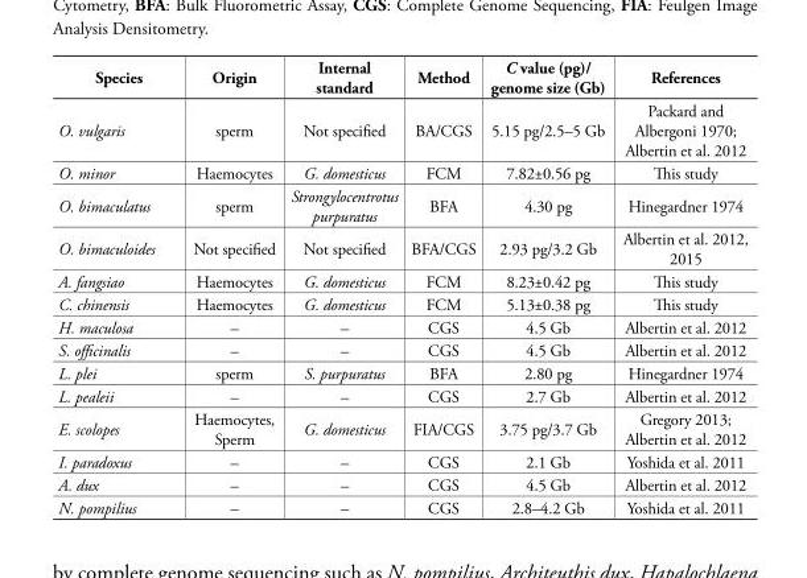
<table><thead><tr><td>Species</td><td>Origin</td><td>Internal standard</td><td>Method</td><td>C value (pg)/ genome size (Gb)</td><td>References</td></tr></thead><tbody><tr><td>O. vulgaris</td><td>sperm</td><td>Not specified</td><td>BA/CGS</td><td>5.15 pg/2.5–5 Gb</td><td>Packard and Albergoni 1970; Albertin et al. 2012</td></tr><tr><td>O. minor</td><td>Haemocytes</td><td>G. domesticus</td><td>FCM</td><td>7.82±0.56 pg</td><td>This study</td></tr><tr><td>O. bimaculatus</td><td>sperm</td><td>Strongylocentrotus purpuratus</td><td>BFA</td><td>4.30 pg</td><td>Hinegardner 1974</td></tr><tr><td>O. bimaculoides</td><td>Not specified</td><td>Not specified</td><td>BFA/CGS</td><td>2.93 pg/3.2 Gb</td><td>Albertin et al. 2012, 2015</td></tr><tr><td>A. fangsiao</td><td>Haemocytes</td><td>G. domesticus</td><td>FCM</td><td>8.23±0.42 pg</td><td>This study</td></tr><tr><td>C. chinensis</td><td>Haemocytes</td><td>G. domesticus</td><td>FCM</td><td>5.13±0.38 pg</td><td>This study</td></tr><tr><td>H. maculosa</td><td>–</td><td>–</td><td>CGS</td><td>4.5 Gb</td><td>Albertin et al. 2012</td></tr><tr><td>S. officinalis</td><td>–</td><td>–</td><td>CGS</td><td>4.5 Gb</td><td>Albertin et al. 2012</td></tr><tr><td>L. plei</td><td>sperm</td><td>S. purpuratus</td><td>BFA</td><td>2.80 pg</td><td>Hinegardner 1974</td></tr><tr><td>L. pealeii</td><td>–</td><td>–</td><td>CGS</td><td>2.7 Gb</td><td>Albertin et al. 2012</td></tr><tr><td>E. scolopes</td><td>Haemocytes, Sperm</td><td>G. domesticus</td><td>FIA/CGS</td><td>3.75 pg/3.7 Gb</td><td>Gregory 2013; Albertin et al. 2012</td></tr><tr><td>I. paradoxus</td><td>–</td><td>–</td><td>CGS</td><td>2.1 Gb</td><td>Yoshida et al. 2011</td></tr><tr><td>A. dux</td><td>–</td><td>–</td><td>CGS</td><td>4.5 Gb</td><td>Albertin et al. 2012</td></tr><tr><td>N. pompilius</td><td>–</td><td>–</td><td>CGS</td><td>2.8–4.2 Gb</td><td>Yoshida et al. 2011</td></tr></tbody></table>